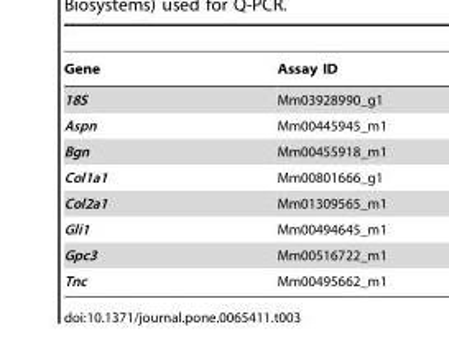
<table><thead><tr><td>Gene</td><td>Assay ID</td></tr></thead><tbody><tr><td>18S</td><td>Mm03928990_g1</td></tr><tr><td>Aspn</td><td>Mm00445945_m1</td></tr><tr><td>Bgn</td><td>Mm00455918_m1</td></tr><tr><td>Col1a1</td><td>Mm00801666_g1</td></tr><tr><td>Col2a1</td><td>Mm01309565_m1</td></tr><tr><td>Gli1</td><td>Mm00494645_m1</td></tr><tr><td>Gpc3</td><td>Mm00516722_m1</td></tr><tr><td>Tnc</td><td>Mm00495662_m1</td></tr></tbody></table>